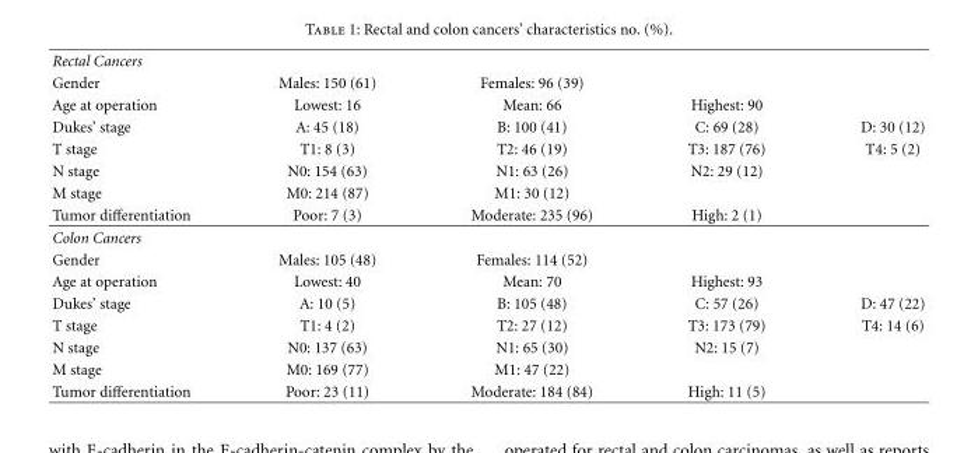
<table><tbody><tr><td colspan="5">Rectal Cancers</td></tr><tr><td>Gender</td><td>Males: 150 (61)</td><td>Females: 96 (39)</td><td></td><td></td></tr><tr><td>Age at operation</td><td>Lowest: 16</td><td>Mean: 66</td><td>Highest: 90</td><td></td></tr><tr><td>Dukes’ stage</td><td>A: 45 (18)</td><td>B: 100 (41)</td><td>C: 69 (28)</td><td>D: 30 (12)</td></tr><tr><td>T stage</td><td>T1: 8 (3)</td><td>T2: 46 (19)</td><td>T3: 187 (76)</td><td>T4: 5 (2)</td></tr><tr><td>N stage</td><td>N0: 154 (63)</td><td>N1: 63 (26)</td><td>N2: 29 (12)</td><td></td></tr><tr><td>M stage</td><td>M0: 214 (87)</td><td>M1: 30 (12)</td><td></td><td></td></tr><tr><td>Tumor differentiation</td><td>Poor: 7 (3)</td><td>Moderate: 235 (96)</td><td>High: 2 (1)</td><td></td></tr><tr><td colspan="5">Colon Cancers</td></tr><tr><td>Gender</td><td>Males: 105 (48)</td><td>Females: 114 (52)</td><td></td><td></td></tr><tr><td>Age at operation</td><td>Lowest: 40</td><td>Mean: 70</td><td>Highest: 93</td><td></td></tr><tr><td>Dukes’ stage</td><td>A: 10 (5)</td><td>B: 105 (48)</td><td>C: 57 (26)</td><td>D: 47 (22)</td></tr><tr><td>T stage</td><td>T1: 4 (2)</td><td>T2: 27 (12)</td><td>T3: 173 (79)</td><td>T4: 14 (6)</td></tr><tr><td>N stage</td><td>N0: 137 (63)</td><td>N1: 65 (30)</td><td>N2: 15 (7)</td><td></td></tr><tr><td>M stage</td><td>M0: 169 (77)</td><td>M1: 47 (22)</td><td></td><td></td></tr><tr><td>Tumor differentiation</td><td>Poor: 23 (11)</td><td>Moderate: 184 (84)</td><td>High: 11 (5)</td><td></td></tr></tbody></table>